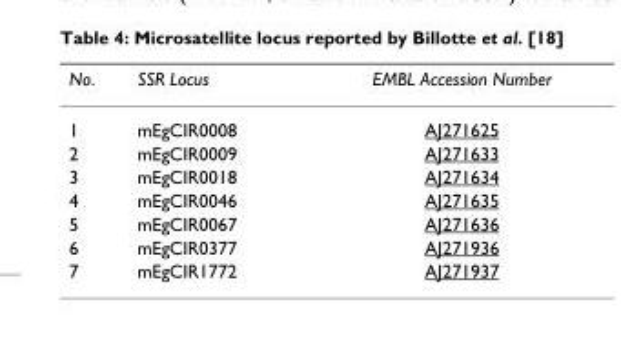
<table><thead><tr><td>No.</td><td>SSR Locus</td><td>EMBL Accession Number</td></tr></thead><tbody><tr><td>1</td><td>mEgCIR0008</td><td>AJ271625</td></tr><tr><td>2</td><td>mEgCIR0009</td><td>AJ271633</td></tr><tr><td>3</td><td>mEgCIR0018</td><td>AJ271634</td></tr><tr><td>4</td><td>mEgCIR0046</td><td>AJ271635</td></tr><tr><td>5</td><td>mEgCIR0067</td><td>AJ271636</td></tr><tr><td>6</td><td>mEgCIR0377</td><td>AJ271936</td></tr><tr><td>7</td><td>mEgCIR1772</td><td>AJ271937</td></tr></tbody></table>